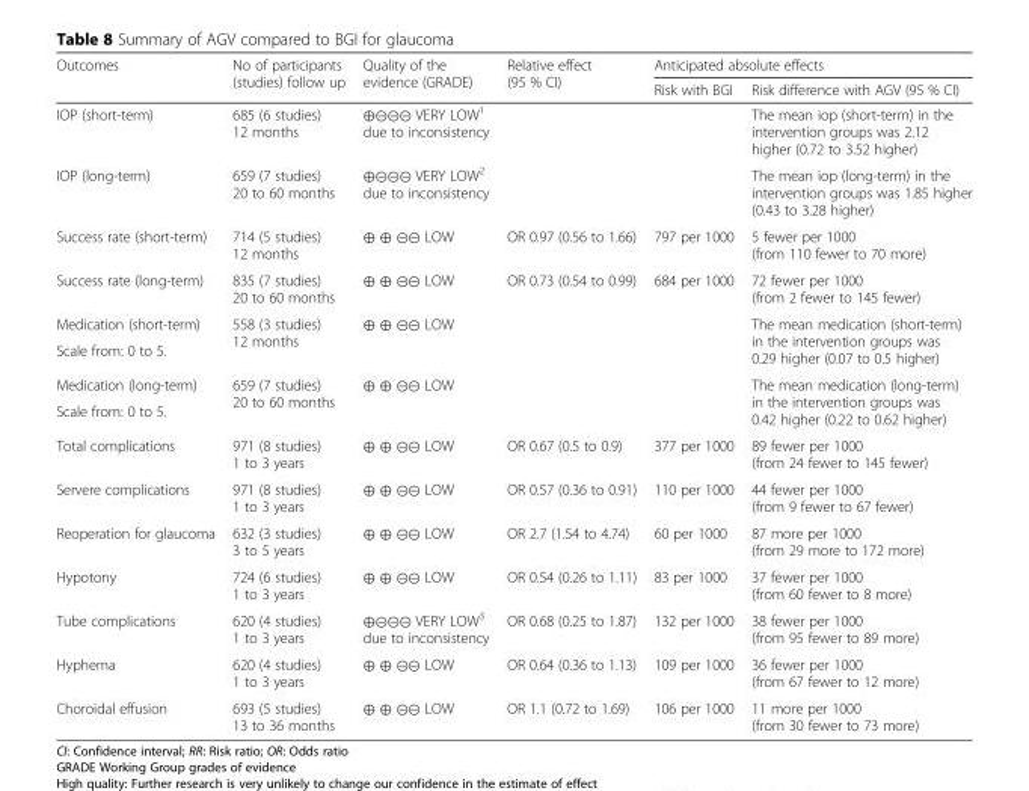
<table><thead><tr><td rowspan="2">Outcomes</td><td rowspan="2">No of participants (studies) follow up</td><td rowspan="2">Quality of the evidence (GRADE)</td><td rowspan="2">Relative effect (95 % CI)</td><td colspan="2">Anticipated absolute effects</td></tr><tr><td>Risk with BGI</td><td>Risk difference with AGV (95 % CI)</td></tr></thead><tbody><tr><td>IOP (short-term)</td><td>685 (6 studies) 12 months</td><td>⊕⊝⊝⊝ VERY LOW<sup>1</sup> due to inconsistency</td><td></td><td></td><td>The mean iop (short-term) in the intervention groups was 2.12 higher (0.72 to 3.52 higher)</td></tr><tr><td>IOP (long-term)</td><td>659 (7 studies) 20 to 60 months</td><td>⊕⊝⊝⊝ VERY LOW<sup>2</sup> due to inconsistency</td><td></td><td></td><td>The mean iop (long-term) in the intervention groups was 1.85 higher (0.43 to 3.28 higher)</td></tr><tr><td>Success rate (short-term)</td><td>714 (5 studies) 12 months</td><td>⊕ ⊕ ⊝⊝ LOW</td><td>OR 0.97 (0.56 to 1.66)</td><td>797 per 1000</td><td>5 fewer per 1000 (from 110 fewer to 70 more)</td></tr><tr><td>Success rate (long-term)</td><td>835 (7 studies) 20 to 60 months</td><td>⊕ ⊕ ⊝⊝ LOW</td><td>OR 0.73 (0.54 to 0.99)</td><td>684 per 1000</td><td>72 fewer per 1000 (from 2 fewer to 145 fewer)</td></tr><tr><td>Medication (short-term)</td><td rowspan="2">558 (3 studies) 12 months</td><td rowspan="2">⊕ ⊕ ⊝⊝ LOW</td><td rowspan="2"></td><td rowspan="2"></td><td rowspan="2">The mean medication (short-term) in the intervention groups was 0.29 higher (0.07 to 0.5 higher)</td></tr><tr><td>Scale from: 0 to 5.</td></tr><tr><td>Medication (long-term)</td><td rowspan="2">659 (7 studies) 20 to 60 months</td><td rowspan="2">⊕ ⊕ ⊝⊝ LOW</td><td rowspan="2"></td><td rowspan="2"></td><td rowspan="2">The mean medication (long-term) in the intervention groups was 0.42 higher (0.22 to 0.62 higher)</td></tr><tr><td>Scale from: 0 to 5.</td></tr><tr><td>Total complications</td><td>971 (8 studies) 1 to 3 years</td><td>⊕ ⊕ ⊝⊝ LOW</td><td>OR 0.67 (0.5 to 0.9)</td><td>377 per 1000</td><td>89 fewer per 1000 (from 24 fewer to 145 fewer)</td></tr><tr><td>Servere complications</td><td>971 (8 studies) 1 to 3 years</td><td>⊕ ⊕ ⊝⊝ LOW</td><td>OR 0.57 (0.36 to 0.91)</td><td>110 per 1000</td><td>44 fewer per 1000 (from 9 fewer to 67 fewer)</td></tr><tr><td>Reoperation for glaucoma</td><td>632 (3 studies) 3 to 5 years</td><td>⊕ ⊕ ⊝⊝ LOW</td><td>OR 2.7 (1.54 to 4.74)</td><td>60 per 1000</td><td>87 more per 1000 (from 29 more to 172 more)</td></tr><tr><td>Hypotony</td><td>724 (6 studies) 1 to 3 years</td><td>⊕ ⊕ ⊝⊝ LOW</td><td>OR 0.54 (0.26 to 1.11)</td><td>83 per 1000</td><td>37 fewer per 1000 (from 60 fewer to 8 more)</td></tr><tr><td>Tube complications</td><td>620 (4 studies) 1 to 3 years</td><td>⊕⊝⊝⊝ VERY LOW<sup>3</sup> due to inconsistency</td><td>OR 0.68 (0.25 to 1.87)</td><td>132 per 1000</td><td>38 fewer per 1000 (from 95 fewer to 89 more)</td></tr><tr><td>Hyphema</td><td>620 (4 studies) 1 to 3 years</td><td>⊕ ⊕ ⊝⊝ LOW</td><td>OR 0.64 (0.36 to 1.13)</td><td>109 per 1000</td><td>36 fewer per 1000 (from 67 fewer to 12 more)</td></tr><tr><td>Choroidal effusion</td><td>693 (5 studies) 13 to 36 months</td><td>⊕ ⊕ ⊝⊝ LOW</td><td>OR 1.1 (0.72 to 1.69)</td><td>106 per 1000</td><td>11 more per 1000 (from 30 fewer to 73 more)</td></tr></tbody></table>